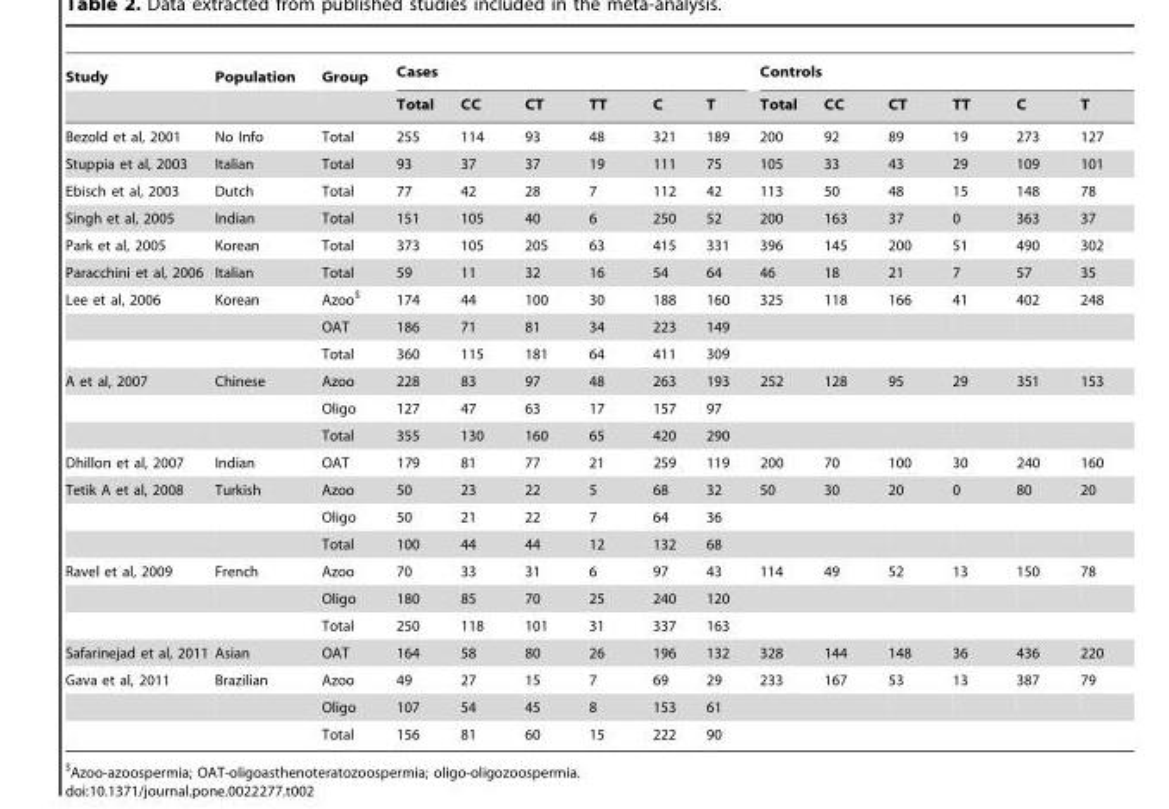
<table><thead><tr><td rowspan="2">Study</td><td rowspan="2">Population</td><td rowspan="2">Group</td><td colspan="6">Cases</td><td colspan="6">Controls</td></tr><tr><td>Total</td><td>CC</td><td>CT</td><td>TT</td><td>C</td><td>T</td><td>Total</td><td>CC</td><td>CT</td><td>TT</td><td>C</td><td>T</td></tr></thead><tbody><tr><td>Bezold et al, 2001</td><td>No Info</td><td>Total</td><td>255</td><td>114</td><td>93</td><td>48</td><td>321</td><td>189</td><td>200</td><td>92</td><td>89</td><td>19</td><td>273</td><td>127</td></tr><tr><td>Stuppia et al, 2003</td><td>Italian</td><td>Total</td><td>93</td><td>37</td><td>37</td><td>19</td><td>111</td><td>75</td><td>105</td><td>33</td><td>43</td><td>29</td><td>109</td><td>101</td></tr><tr><td>Ebisch et al, 2003</td><td>Dutch</td><td>Total</td><td>77</td><td>42</td><td>28</td><td>7</td><td>112</td><td>42</td><td>113</td><td>50</td><td>48</td><td>15</td><td>148</td><td>78</td></tr><tr><td>Singh et al, 2005</td><td>Indian</td><td>Total</td><td>151</td><td>105</td><td>40</td><td>6</td><td>250</td><td>52</td><td>200</td><td>163</td><td>37</td><td>0</td><td>363</td><td>37</td></tr><tr><td>Park et al, 2005</td><td>Korean</td><td>Total</td><td>373</td><td>105</td><td>205</td><td>63</td><td>415</td><td>331</td><td>396</td><td>145</td><td>200</td><td>51</td><td>490</td><td>302</td></tr><tr><td>Paracchini et al, 2006</td><td>Italian</td><td>Total</td><td>59</td><td>11</td><td>32</td><td>16</td><td>54</td><td>64</td><td>46</td><td>18</td><td>21</td><td>7</td><td>57</td><td>35</td></tr><tr><td rowspan="3">Lee et al, 2006</td><td>Korean</td><td>Azoo$</td><td>174</td><td>44</td><td>100</td><td>30</td><td>188</td><td>160</td><td>325</td><td>118</td><td>166</td><td>41</td><td>402</td><td>248</td></tr><tr><td></td><td>OAT</td><td>186</td><td>71</td><td>81</td><td>34</td><td>223</td><td>149</td><td></td><td></td><td></td><td></td><td></td><td></td></tr><tr><td></td><td>Total</td><td>360</td><td>115</td><td>181</td><td>64</td><td>411</td><td>309</td><td></td><td></td><td></td><td></td><td></td><td></td></tr><tr><td rowspan="3">A et al, 2007</td><td>Chinese</td><td>Azoo</td><td>228</td><td>83</td><td>97</td><td>48</td><td>263</td><td>193</td><td>252</td><td>128</td><td>95</td><td>29</td><td>351</td><td>153</td></tr><tr><td></td><td>Oligo</td><td>127</td><td>47</td><td>63</td><td>17</td><td>157</td><td>97</td><td></td><td></td><td></td><td></td><td></td><td></td></tr><tr><td></td><td>Total</td><td>355</td><td>130</td><td>160</td><td>65</td><td>420</td><td>290</td><td></td><td></td><td></td><td></td><td></td><td></td></tr><tr><td>Dhillon et al, 2007</td><td>Indian</td><td>OAT</td><td>179</td><td>81</td><td>77</td><td>21</td><td>259</td><td>119</td><td>200</td><td>70</td><td>100</td><td>30</td><td>240</td><td>160</td></tr><tr><td rowspan="3">Tetik A et al, 2008</td><td>Turkish</td><td>Azoo</td><td>50</td><td>23</td><td>22</td><td>5</td><td>68</td><td>32</td><td>50</td><td>30</td><td>20</td><td>0</td><td>80</td><td>20</td></tr><tr><td></td><td>Oligo</td><td>50</td><td>21</td><td>22</td><td>7</td><td>64</td><td>36</td><td></td><td></td><td></td><td></td><td></td><td></td></tr><tr><td></td><td>Total</td><td>100</td><td>44</td><td>44</td><td>12</td><td>132</td><td>68</td><td></td><td></td><td></td><td></td><td></td><td></td></tr><tr><td rowspan="3">Ravel et al, 2009</td><td>French</td><td>Azoo</td><td>70</td><td>33</td><td>31</td><td>6</td><td>97</td><td>43</td><td>114</td><td>49</td><td>52</td><td>13</td><td>150</td><td>78</td></tr><tr><td></td><td>Oligo</td><td>180</td><td>85</td><td>70</td><td>25</td><td>240</td><td>120</td><td></td><td></td><td></td><td></td><td></td><td></td></tr><tr><td></td><td>Total</td><td>250</td><td>118</td><td>101</td><td>31</td><td>337</td><td>163</td><td></td><td></td><td></td><td></td><td></td><td></td></tr><tr><td>Safarinejad et al, 2011</td><td>Asian</td><td>OAT</td><td>164</td><td>58</td><td>80</td><td>26</td><td>196</td><td>132</td><td>328</td><td>144</td><td>148</td><td>36</td><td>436</td><td>220</td></tr><tr><td rowspan="3">Gava et al, 2011</td><td>Brazilian</td><td>Azoo</td><td>49</td><td>27</td><td>15</td><td>7</td><td>69</td><td>29</td><td>233</td><td>167</td><td>53</td><td>13</td><td>387</td><td>79</td></tr><tr><td></td><td>Oligo</td><td>107</td><td>54</td><td>45</td><td>8</td><td>153</td><td>61</td><td></td><td></td><td></td><td></td><td></td><td></td></tr><tr><td></td><td>Total</td><td>156</td><td>81</td><td>60</td><td>15</td><td>222</td><td>90</td><td></td><td></td><td></td><td></td><td></td><td></td></tr></tbody></table>